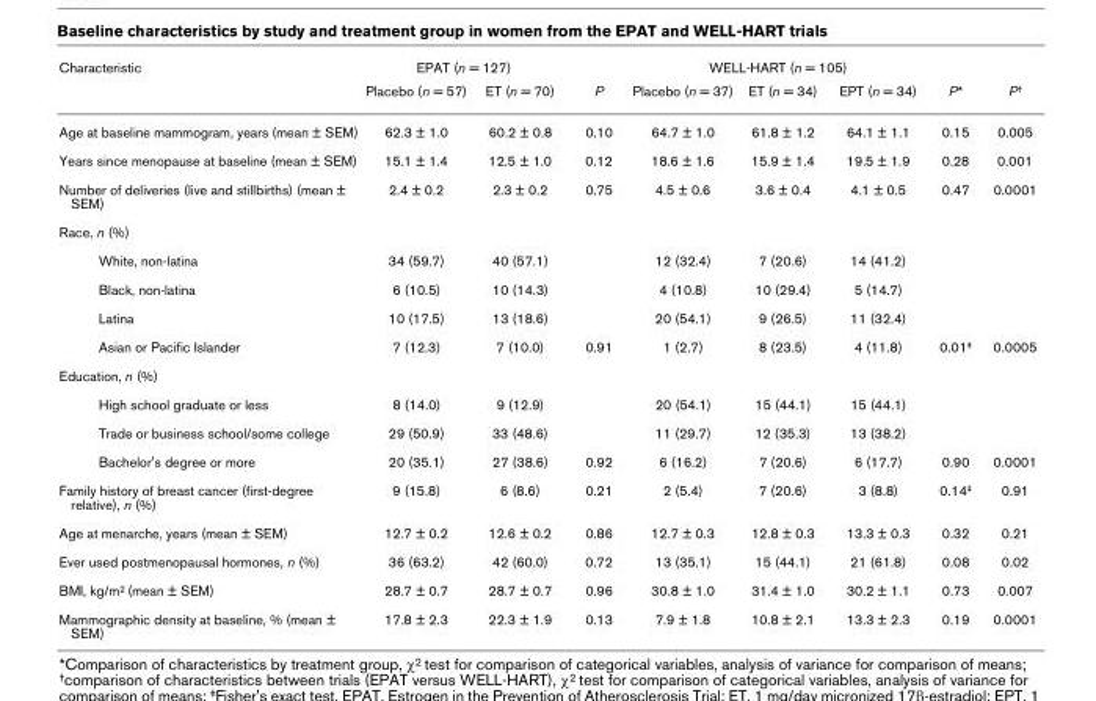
<table><thead><tr><td rowspan="2">Characteristic</td><td colspan="2">EPAT (n = 127)</td><td rowspan="2">P</td><td colspan="3">WELL-HART (n = 105)</td><td rowspan="2">P*</td><td rowspan="2">P†</td></tr><tr><td>Placebo (n = 57)</td><td>ET (n = 70)</td><td>Placebo (n = 37)</td><td>ET (n = 34)</td><td>EPT (n = 34)</td></tr></thead><tbody><tr><td>Age at baseline mammogram, years (mean ± SEM)</td><td>62.3 ± 1.0</td><td>60.2 ± 0.8</td><td>0.10</td><td>64.7 ± 1.0</td><td>61.8 ± 1.2</td><td>64.1 ± 1.1</td><td>0.15</td><td>0.005</td></tr><tr><td>Years since menopause at baseline (mean ± SEM)</td><td>15.1 ± 1.4</td><td>12.5 ± 1.0</td><td>0.12</td><td>18.6 ± 1.6</td><td>15.9 ± 1.4</td><td>19.5 ± 1.9</td><td>0.28</td><td>0.001</td></tr><tr><td>Number of deliveries (live and stillbirths) (mean ± SEM)</td><td>2.4 ± 0.2</td><td>2.3 ± 0.2</td><td>0.75</td><td>4.5 ± 0.6</td><td>3.6 ± 0.4</td><td>4.1 ± 0.5</td><td>0.47</td><td>0.0001</td></tr><tr><td colspan="9">Race, n (%)</td></tr><tr><td>White, non-latina</td><td>34 (59.7)</td><td>40 (57.1)</td><td></td><td>12 (32.4)</td><td>7 (20.6)</td><td>14 (41.2)</td><td></td><td></td></tr><tr><td>Black, non-latina</td><td>6 (10.5)</td><td>10 (14.3)</td><td></td><td>4 (10.8)</td><td>10 (29.4)</td><td>5 (14.7)</td><td></td><td></td></tr><tr><td>Latina</td><td>10 (17.5)</td><td>13 (18.6)</td><td></td><td>20 (54.1)</td><td>9 (26.5)</td><td>11 (32.4)</td><td></td><td></td></tr><tr><td>Asian or Pacific Islander</td><td>7 (12.3)</td><td>7 (10.0)</td><td>0.91</td><td>1 (2.7)</td><td>8 (23.5)</td><td>4 (11.8)</td><td>0.01‡</td><td>0.0005</td></tr><tr><td colspan="9">Education, n (%)</td></tr><tr><td>High school graduate or less</td><td>8 (14.0)</td><td>9 (12.9)</td><td></td><td>20 (54.1)</td><td>15 (44.1)</td><td>15 (44.1)</td><td></td><td></td></tr><tr><td>Trade or business school/some college</td><td>29 (50.9)</td><td>33 (48.6)</td><td></td><td>11 (29.7)</td><td>12 (35.3)</td><td>13 (38.2)</td><td></td><td></td></tr><tr><td>Bachelor&#x27;s degree or more</td><td>20 (35.1)</td><td>27 (38.6)</td><td>0.92</td><td>6 (16.2)</td><td>7 (20.6)</td><td>6 (17.7)</td><td>0.90</td><td>0.0001</td></tr><tr><td>Family history of breast cancer (first-degree relative), n (%)</td><td>9 (15.8)</td><td>6 (8.6)</td><td>0.21</td><td>2 (5.4)</td><td>7 (20.6)</td><td>3 (8.8)</td><td>0.14‡</td><td>0.91</td></tr><tr><td>Age at menarche, years (mean ± SEM)</td><td>12.7 ± 0.2</td><td>12.6 ± 0.2</td><td>0.86</td><td>12.7 ± 0.3</td><td>12.8 ± 0.3</td><td>13.3 ± 0.3</td><td>0.32</td><td>0.21</td></tr><tr><td>Ever used postmenopausal hormones, n (%)</td><td>36 (63.2)</td><td>42 (60.0)</td><td>0.72</td><td>13 (35.1)</td><td>15 (44.1)</td><td>21 (61.8)</td><td>0.08</td><td>0.02</td></tr><tr><td>BMI, kg/m2 (mean ± SEM)</td><td>28.7 ± 0.7</td><td>28.7 ± 0.7</td><td>0.96</td><td>30.8 ± 1.0</td><td>31.4 ± 1.0</td><td>30.2 ± 1.1</td><td>0.73</td><td>0.007</td></tr><tr><td>Mammographic density at baseline, % (mean ± SEM)</td><td>17.8 ± 2.3</td><td>22.3 ± 1.9</td><td>0.13</td><td>7.9 ± 1.8</td><td>10.8 ± 2.1</td><td>13.3 ± 2.3</td><td>0.19</td><td>0.0001</td></tr></tbody></table>